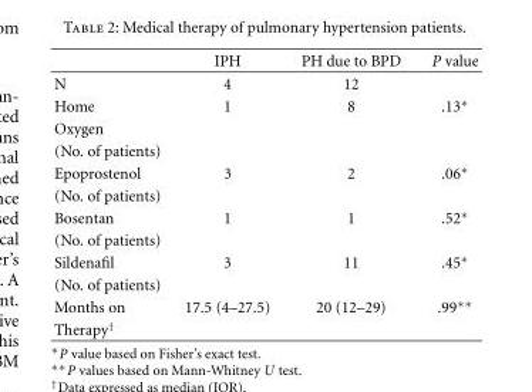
<table><thead><tr><td></td><td>IPH</td><td>PH due to BPD</td><td>P value</td></tr></thead><tbody><tr><td>N</td><td>4</td><td>12</td><td></td></tr><tr><td>Home</td><td>1</td><td>8</td><td>.13∗</td></tr><tr><td colspan="4">Oxygen</td></tr><tr><td colspan="4">(No. of patients)</td></tr><tr><td>Epoprostenol</td><td>3</td><td>2</td><td>.06∗</td></tr><tr><td colspan="4">(No. of patients)</td></tr><tr><td>Bosentan</td><td>1</td><td>1</td><td>.52∗</td></tr><tr><td colspan="4">(No. of patients)</td></tr><tr><td>Sildenafil</td><td>3</td><td>11</td><td>.45∗</td></tr><tr><td colspan="4">(No. of patients)</td></tr><tr><td>Months on</td><td>17.5 (4–27.5)</td><td>20 (12–29)</td><td>.99∗∗</td></tr><tr><td>Therapy<sup>†</sup></td><td></td><td></td><td></td></tr></tbody></table>